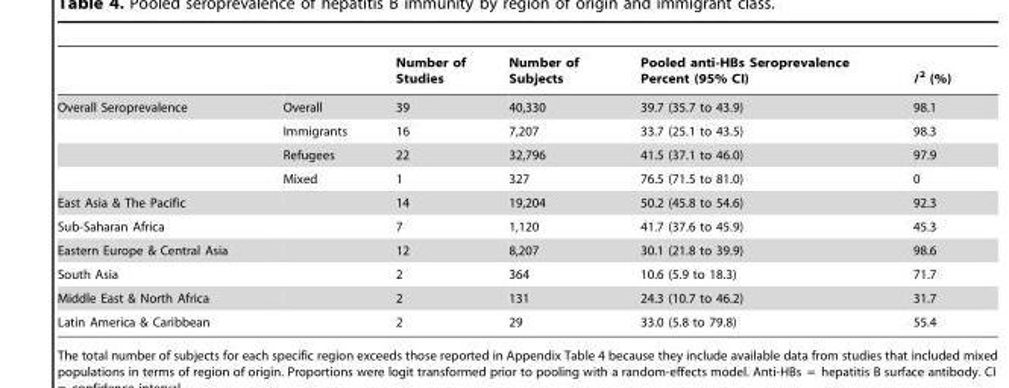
<table><thead><tr><td></td><td></td><td>Number of Studies</td><td>Number of Subjects</td><td>Pooled anti-HBs Seroprevalence Percent (95% CI)</td><td>I <sup>2</sup> (%)</td></tr></thead><tbody><tr><td rowspan="4">Overall Seroprevalence</td><td>Overall</td><td>39</td><td>40,330</td><td>39.7 (35.7 to 43.9)</td><td>98.1</td></tr><tr><td>Immigrants</td><td>16</td><td>7,207</td><td>33.7 (25.1 to 43.5)</td><td>98.3</td></tr><tr><td>Refugees</td><td>22</td><td>32,796</td><td>41.5 (37.1 to 46.0)</td><td>97.9</td></tr><tr><td>Mixed</td><td>1</td><td>327</td><td>76.5 (71.5 to 81.0)</td><td>0</td></tr><tr><td>East Asia &amp; The Pacific</td><td></td><td>14</td><td>19,204</td><td>50.2 (45.8 to 54.6)</td><td>92.3</td></tr><tr><td>Sub-Saharan Africa</td><td></td><td>7</td><td>1,120</td><td>41.7 (37.6 to 45.9)</td><td>45.3</td></tr><tr><td>Eastern Europe &amp; Central Asia</td><td></td><td>12</td><td>8,207</td><td>30.1 (21.8 to 39.9)</td><td>98.6</td></tr><tr><td>South Asia</td><td></td><td>2</td><td>364</td><td>10.6 (5.9 to 18.3)</td><td>71.7</td></tr><tr><td>Middle East &amp; North Africa</td><td></td><td>2</td><td>131</td><td>24.3 (10.7 to 46.2)</td><td>31.7</td></tr><tr><td>Latin America &amp; Caribbean</td><td></td><td>2</td><td>29</td><td>33.0 (5.8 to 79.8)</td><td>55.4</td></tr></tbody></table>